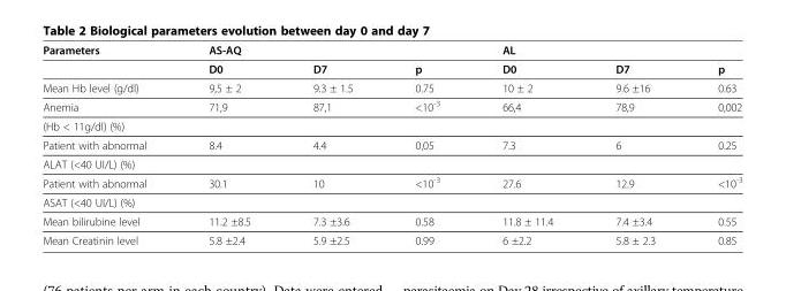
<table><thead><tr><td rowspan="2">Parameters</td><td colspan="2">AS-AQ</td><td rowspan="2">p</td><td colspan="2">AL</td><td rowspan="2">p</td></tr><tr><td>D0</td><td>D7</td><td>D0</td><td>D7</td></tr></thead><tbody><tr><td>Mean Hb level (g/dl)</td><td>9,5 ± 2</td><td>9.3 ± 1.5</td><td>0.75</td><td>10 ± 2</td><td>9.6 ±16</td><td>0.63</td></tr><tr><td>Anemia</td><td>71,9</td><td>87,1</td><td>&lt;10<sup>-3</sup></td><td>66,4</td><td>78,9</td><td>0,002</td></tr><tr><td colspan="7">(Hb &lt; 11g/dl) (%)</td></tr><tr><td>Patient with abnormal</td><td>8.4</td><td>4.4</td><td>0,05</td><td>7.3</td><td>6</td><td>0.25</td></tr><tr><td colspan="7">ALAT (&lt;40 UI/L) (%)</td></tr><tr><td>Patient with abnormal</td><td>30.1</td><td>10</td><td>&lt;10<sup>-3</sup></td><td>27.6</td><td>12.9</td><td>&lt;10<sup>-3</sup></td></tr><tr><td colspan="7">ASAT (&lt;40 UI/L) (%)</td></tr><tr><td>Mean bilirubine level</td><td>11.2 ±8.5</td><td>7.3 ±3.6</td><td>0.58</td><td>11.8 ± 11.4</td><td>7.4 ±3.4</td><td>0.55</td></tr><tr><td>Mean Creatinin level</td><td>5.8 ±2.4</td><td>5.9 ±2.5</td><td>0.99</td><td>6 ±2.2</td><td>5.8 ± 2.3</td><td>0.85</td></tr></tbody></table>